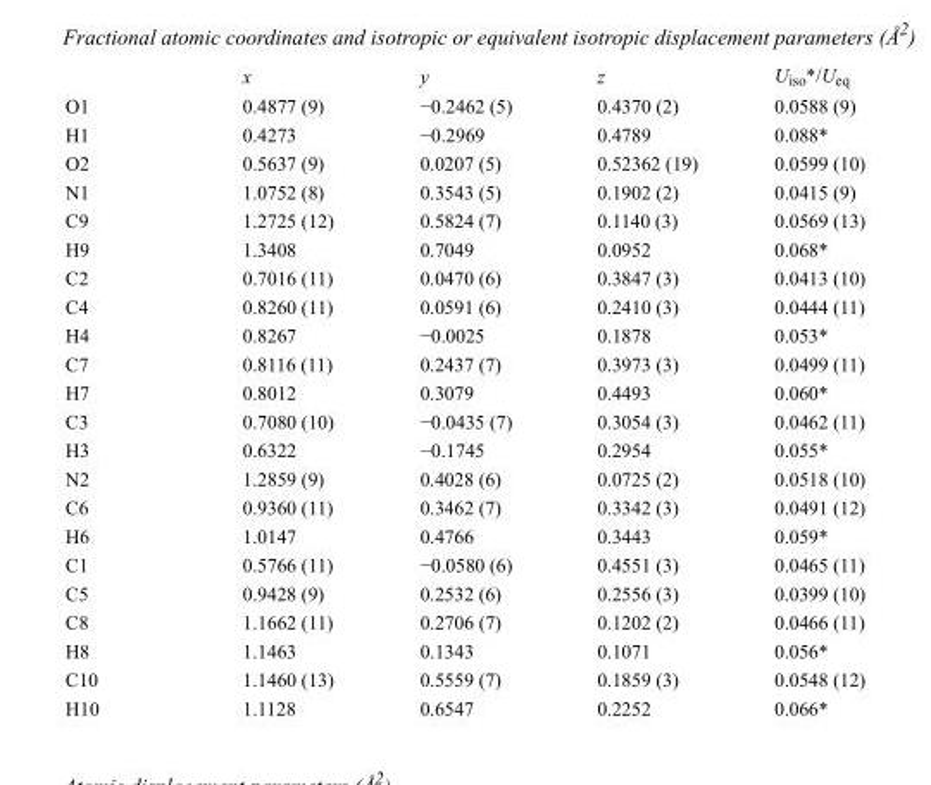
<table><thead><tr><td></td><td>x</td><td>y</td><td>z</td><td>U<sub>iso</sub>*/U<sub>eq</sub></td></tr></thead><tbody><tr><td>O1</td><td>0.4877 (9)</td><td>−0.2462 (5)</td><td>0.4370 (2)</td><td>0.0588 (9)</td></tr><tr><td>H1</td><td>0.4273</td><td>−0.2969</td><td>0.4789</td><td>0.088*</td></tr><tr><td>O2</td><td>0.5637 (9)</td><td>0.0207 (5)</td><td>0.52362 (19)</td><td>0.0599 (10)</td></tr><tr><td>N1</td><td>1.0752 (8)</td><td>0.3543 (5)</td><td>0.1902 (2)</td><td>0.0415 (9)</td></tr><tr><td>C9</td><td>1.2725 (12)</td><td>0.5824 (7)</td><td>0.1140 (3)</td><td>0.0569 (13)</td></tr><tr><td>H9</td><td>1.3408</td><td>0.7049</td><td>0.0952</td><td>0.068*</td></tr><tr><td>C2</td><td>0.7016 (11)</td><td>0.0470 (6)</td><td>0.3847 (3)</td><td>0.0413 (10)</td></tr><tr><td>C4</td><td>0.8260 (11)</td><td>0.0591 (6)</td><td>0.2410 (3)</td><td>0.0444 (11)</td></tr><tr><td>H4</td><td>0.8267</td><td>−0.0025</td><td>0.1878</td><td>0.053*</td></tr><tr><td>C7</td><td>0.8116 (11)</td><td>0.2437 (7)</td><td>0.3973 (3)</td><td>0.0499 (11)</td></tr><tr><td>H7</td><td>0.8012</td><td>0.3079</td><td>0.4493</td><td>0.060*</td></tr><tr><td>C3</td><td>0.7080 (10)</td><td>−0.0435 (7)</td><td>0.3054 (3)</td><td>0.0462 (11)</td></tr><tr><td>H3</td><td>0.6322</td><td>−0.1745</td><td>0.2954</td><td>0.055*</td></tr><tr><td>N2</td><td>1.2859 (9)</td><td>0.4028 (6)</td><td>0.0725 (2)</td><td>0.0518 (10)</td></tr><tr><td>C6</td><td>0.9360 (11)</td><td>0.3462 (7)</td><td>0.3342 (3)</td><td>0.0491 (12)</td></tr><tr><td>H6</td><td>1.0147</td><td>0.4766</td><td>0.3443</td><td>0.059*</td></tr><tr><td>C1</td><td>0.5766 (11)</td><td>−0.0580 (6)</td><td>0.4551 (3)</td><td>0.0465 (11)</td></tr><tr><td>C5</td><td>0.9428 (9)</td><td>0.2532 (6)</td><td>0.2556 (3)</td><td>0.0399 (10)</td></tr><tr><td>C8</td><td>1.1662 (11)</td><td>0.2706 (7)</td><td>0.1202 (2)</td><td>0.0466 (11)</td></tr><tr><td>H8</td><td>1.1463</td><td>0.1343</td><td>0.1071</td><td>0.056*</td></tr><tr><td>C10</td><td>1.1460 (13)</td><td>0.5559 (7)</td><td>0.1859 (3)</td><td>0.0548 (12)</td></tr><tr><td>H10</td><td>1.1128</td><td>0.6547</td><td>0.2252</td><td>0.066*</td></tr></tbody></table>